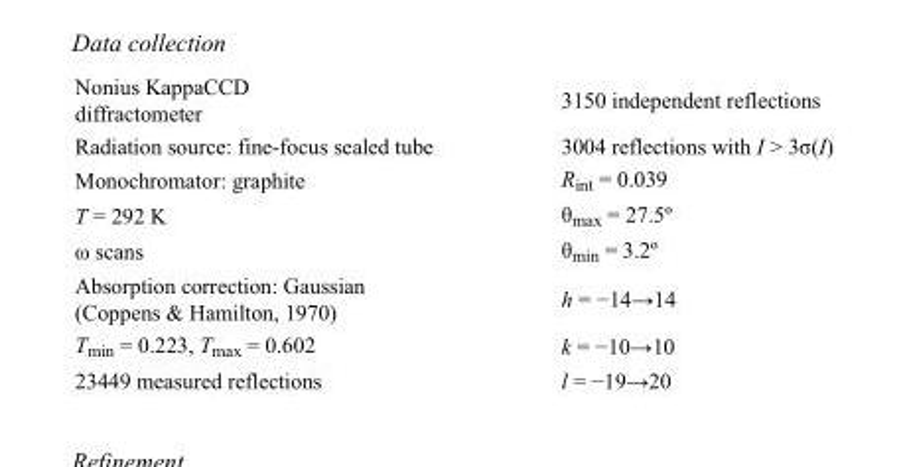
<table><tbody><tr><td>Nonius KappaCCD diffractometer</td><td>3150 independent reflections</td></tr><tr><td>Radiation source: fine-focus sealed tube</td><td>3004 reflections with I &gt; 3σ(I)</td></tr><tr><td>Monochromator: graphite</td><td>R<sub>int</sub> = 0.039</td></tr><tr><td>T = 292 K</td><td>θ<sub>max</sub> = 27.5º</td></tr><tr><td>ω scans</td><td>θ<sub>min</sub> = 3.2º</td></tr><tr><td>Absorption correction: Gaussian (Coppens &amp; Hamilton, 1970)</td><td>h = −14→14</td></tr><tr><td>T<sub>min</sub> = 0.223, T<sub>max</sub> = 0.602</td><td>k = −10→10</td></tr><tr><td>23449 measured reflections</td><td>l = −19→20</td></tr></tbody></table>